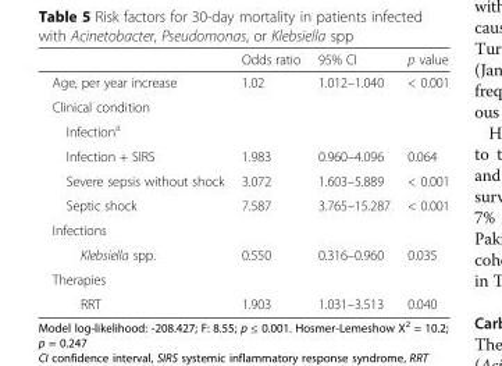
<table><thead><tr><td></td><td>Odds ratio</td><td>95% CI</td><td>p value</td></tr></thead><tbody><tr><td>Age, per year increase</td><td>1.02</td><td>1.012–1.040</td><td>&lt; 0.001</td></tr><tr><td colspan="4">Clinical condition</td></tr><tr><td colspan="4">Infection<sup>a</sup></td></tr><tr><td>Infection + SIRS</td><td>1.983</td><td>0.960–4.096</td><td>0.064</td></tr><tr><td>Severe sepsis without shock</td><td>3.072</td><td>1.603–5.889</td><td>&lt; 0.001</td></tr><tr><td>Septic shock</td><td>7.587</td><td>3.765–15.287</td><td>&lt; 0.001</td></tr><tr><td colspan="4">Infections</td></tr><tr><td>Klebsiella spp.</td><td>0.550</td><td>0.316–0.960</td><td>0.035</td></tr><tr><td colspan="4">Therapies</td></tr><tr><td>RRT</td><td>1.903</td><td>1.031–3.513</td><td>0.040</td></tr></tbody></table>